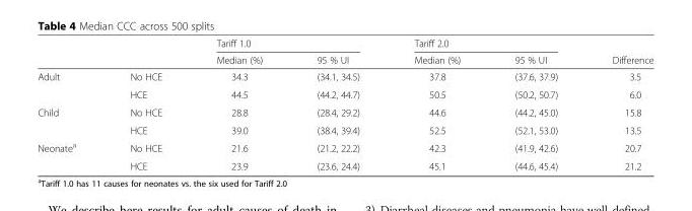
<table><thead><tr><td rowspan="2"></td><td rowspan="2"></td><td colspan="2">Tariff 1.0</td><td colspan="2">Tariff 2.0</td><td rowspan="2">Difference</td></tr><tr><td>Median (%)</td><td>95 % UI</td><td>Median (%)</td><td>95 % UI</td></tr></thead><tbody><tr><td rowspan="2">Adult</td><td>No HCE</td><td>34.3</td><td>(34.1, 34.5)</td><td>37.8</td><td>(37.6, 37.9)</td><td>3.5</td></tr><tr><td>HCE</td><td>44.5</td><td>(44.2, 44.7)</td><td>50.5</td><td>(50.2, 50.7)</td><td>6.0</td></tr><tr><td rowspan="2">Child</td><td>No HCE</td><td>28.8</td><td>(28.4, 29.2)</td><td>44.6</td><td>(44.2, 45.0)</td><td>15.8</td></tr><tr><td>HCE</td><td>39.0</td><td>(38.4, 39.4)</td><td>52.5</td><td>(52.1, 53.0)</td><td>13.5</td></tr><tr><td rowspan="2">Neonate<sup>a</sup></td><td>No HCE</td><td>21.6</td><td>(21.2, 22.2)</td><td>42.3</td><td>(41.9, 42.6)</td><td>20.7</td></tr><tr><td>HCE</td><td>23.9</td><td>(23.6, 24.4)</td><td>45.1</td><td>(44.6, 45.4)</td><td>21.2</td></tr></tbody></table>